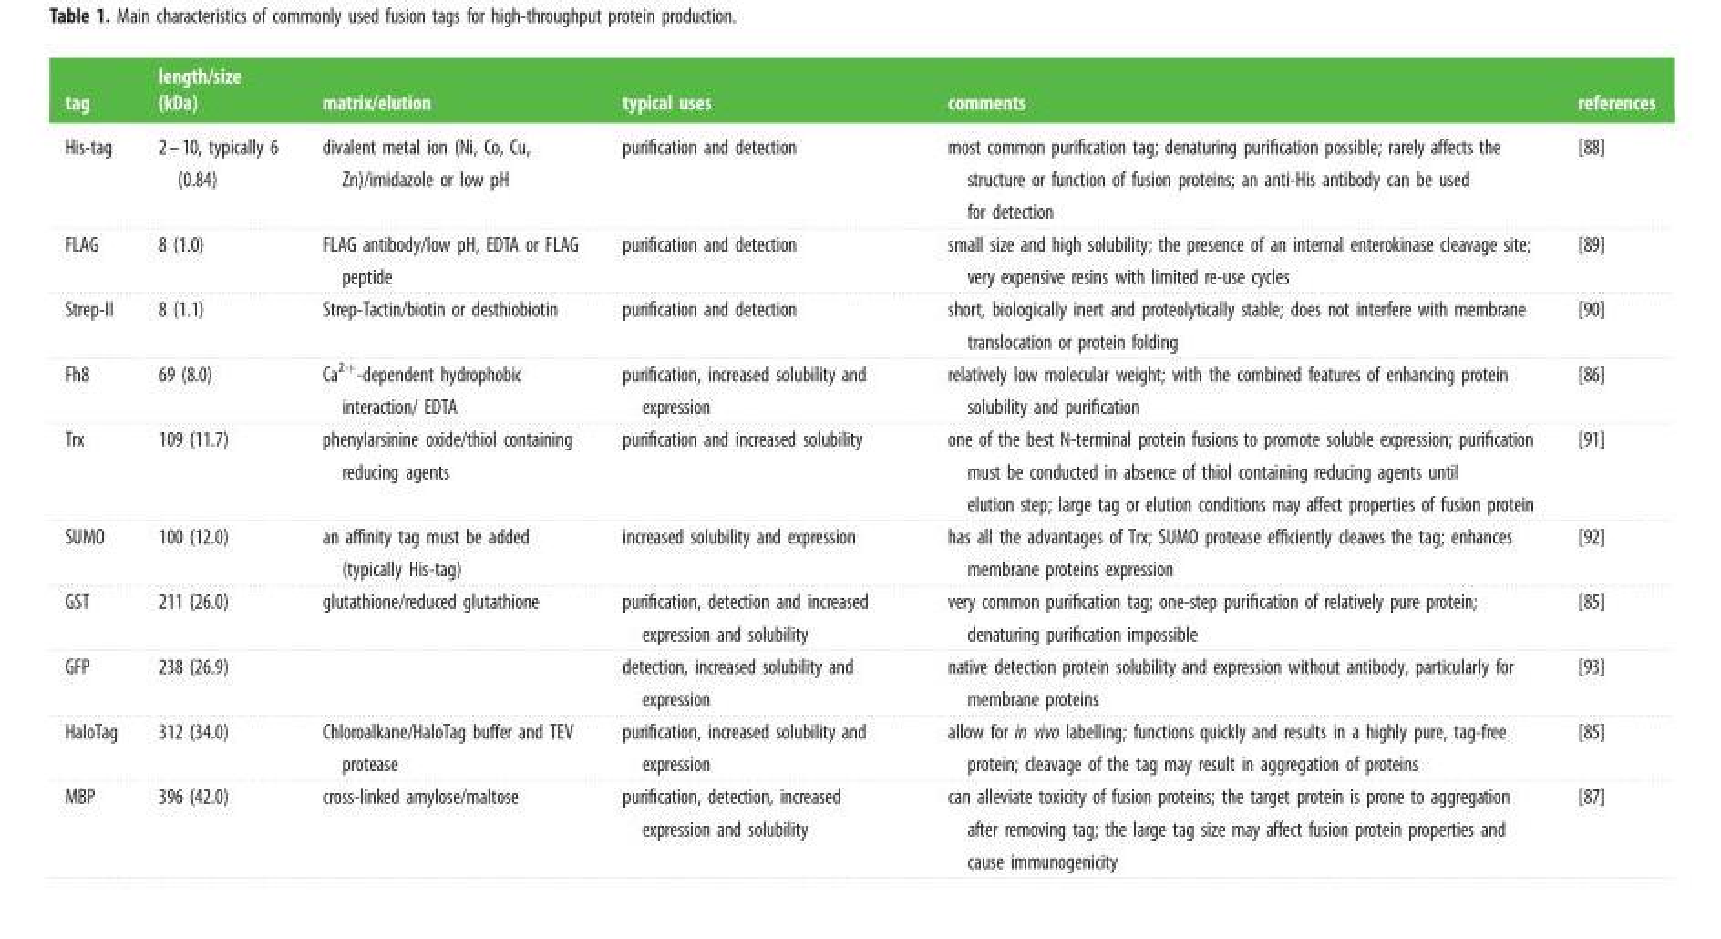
<table><thead><tr><td>tag</td><td>length/size (kDa)</td><td>matrix/elution</td><td>typical uses</td><td>comments</td><td>references</td></tr></thead><tbody><tr><td>His-tag</td><td>2–10, typically 6 (0.84)</td><td>divalent metal ion (Ni, Co, Cu, Zn)/imidazole or low pH</td><td>purification and detection</td><td>most common purification tag; denaturing purification possible; rarely affects the structure or function of fusion proteins; an anti-His antibody can be used for detection</td><td>[88]</td></tr><tr><td>FLAG</td><td>8 (1.0)</td><td>FLAG antibody/low pH, EDTA or FLAG peptide</td><td>purification and detection</td><td>small size and high solubility; the presence of an internal enterokinase cleavage site; very expensive resins with limited re-use cycles</td><td>[89]</td></tr><tr><td>Strep-II</td><td>8 (1.1)</td><td>Strep-Tactin/biotin or desthiobiotin</td><td>purification and detection</td><td>short, biologically inert and proteolytically stable; does not interfere with membrane translocation or protein folding</td><td>[90]</td></tr><tr><td>Fh8</td><td>69 (8.0)</td><td>Ca<sup>2+</sup>-dependent hydrophobic interaction/ EDTA</td><td>purification, increased solubility and expression</td><td>relatively low molecular weight; with the combined features of enhancing protein solubility and purification</td><td>[86]</td></tr><tr><td>Trx</td><td>109 (11.7)</td><td>phenylarsinine oxide/thiol containing reducing agents</td><td>purification and increased solubility</td><td>one of the best N-terminal protein fusions to promote soluble expression; purification must be conducted in absence of thiol containing reducing agents until elution step; large tag or elution conditions may affect properties of fusion protein</td><td>[91]</td></tr><tr><td>SUMO</td><td>100 (12.0)</td><td>an affinity tag must be added (typically His-tag)</td><td>increased solubility and expression</td><td>has all the advantages of Trx; SUMO protease efficiently cleaves the tag; enhances membrane proteins expression</td><td>[92]</td></tr><tr><td>GST</td><td>211 (26.0)</td><td>glutathione/reduced glutathione</td><td>purification, detection and increased expression and solubility</td><td>very common purification tag; one-step purification of relatively pure protein; denaturing purification impossible</td><td>[85]</td></tr><tr><td>GFP</td><td>238 (26.9)</td><td></td><td>detection, increased solubility and expression</td><td>native detection protein solubility and expression without antibody, particularly for membrane proteins</td><td>[93]</td></tr><tr><td>HaloTag</td><td>312 (34.0)</td><td>Chloroalkane/HaloTag buffer and TEV protease</td><td>purification, increased solubility and expression</td><td>allow for in vivo labelling; functions quickly and results in a highly pure, tag-free protein; cleavage of the tag may result in aggregation of proteins</td><td>[85]</td></tr><tr><td>MBP</td><td>396 (42.0)</td><td>cross-linked amylose/maltose</td><td>purification, detection, increased expression and solubility</td><td>can alleviate toxicity of fusion proteins; the target protein is prone to aggregation after removing tag; the large tag size may affect fusion protein properties and cause immunogenicity</td><td>[87]</td></tr></tbody></table>